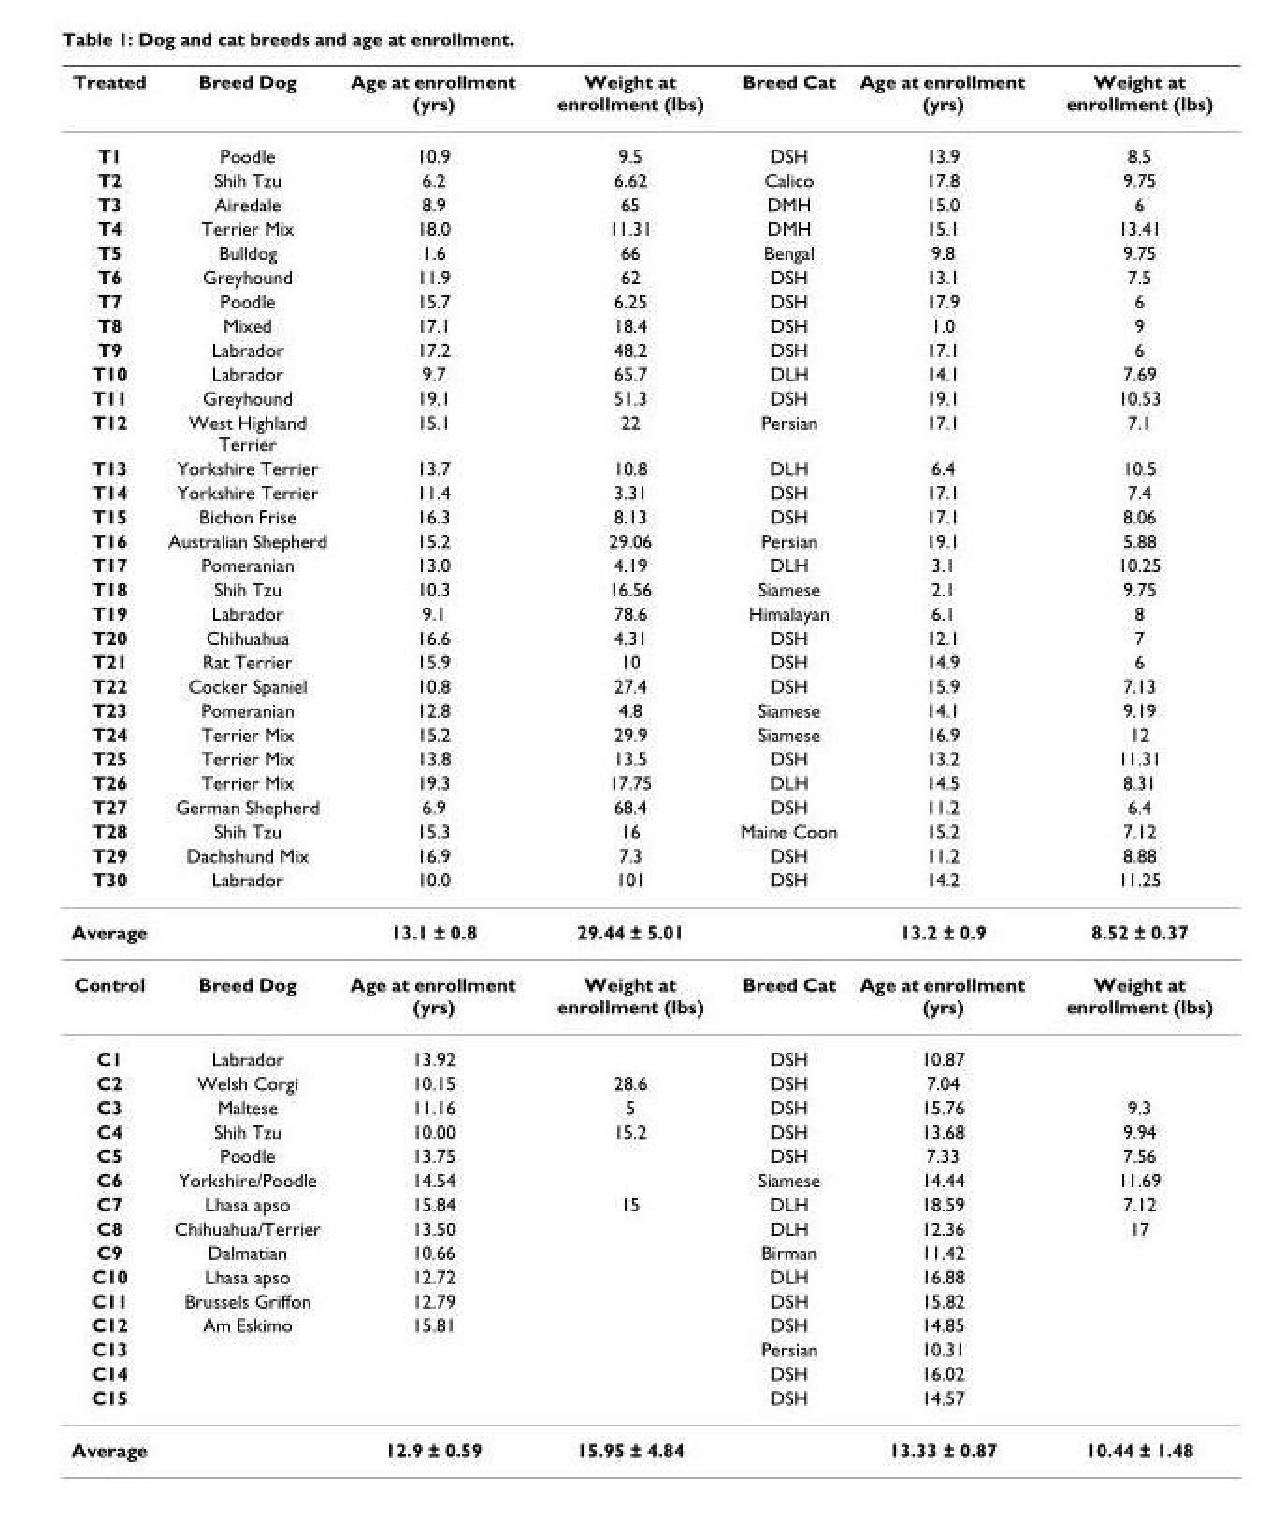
<table><thead><tr><td>Treated</td><td>Breed Dog</td><td>Age at enrollment (yrs)</td><td>Weight at enrollment (lbs)</td><td>Breed Cat</td><td>Age at enrollment (yrs)</td><td>Weight at enrollment (lbs)</td></tr></thead><tbody><tr><td>T1</td><td>Poodle</td><td>10.9</td><td>9.5</td><td>DSH</td><td>13.9</td><td>8.5</td></tr><tr><td>T2</td><td>Shih Tzu</td><td>6.2</td><td>6.62</td><td>Calico</td><td>17.8</td><td>9.75</td></tr><tr><td>T3</td><td>Airedale</td><td>8.9</td><td>65</td><td>DMH</td><td>15.0</td><td>6</td></tr><tr><td>T4</td><td>Terrier Mix</td><td>18.0</td><td>11.31</td><td>DMH</td><td>15.1</td><td>13.41</td></tr><tr><td>T5</td><td>Bulldog</td><td>1.6</td><td>66</td><td>Bengal</td><td>9.8</td><td>9.75</td></tr><tr><td>T6</td><td>Greyhound</td><td>11.9</td><td>62</td><td>DSH</td><td>13.1</td><td>7.5</td></tr><tr><td>T7</td><td>Poodle</td><td>15.7</td><td>6.25</td><td>DSH</td><td>17.9</td><td>6</td></tr><tr><td>T8</td><td>Mixed</td><td>17.1</td><td>18.4</td><td>DSH</td><td>1.0</td><td>9</td></tr><tr><td>T9</td><td>Labrador</td><td>17.2</td><td>48.2</td><td>DSH</td><td>17.1</td><td>6</td></tr><tr><td>T10</td><td>Labrador</td><td>9.7</td><td>65.7</td><td>DLH</td><td>14.1</td><td>7.69</td></tr><tr><td>T11</td><td>Greyhound</td><td>19.1</td><td>51.3</td><td>DSH</td><td>19.1</td><td>10.53</td></tr><tr><td>T12</td><td>West Highland Terrier</td><td>15.1</td><td>22</td><td>Persian</td><td>17.1</td><td>7.1</td></tr><tr><td>T13</td><td>Yorkshire Terrier</td><td>13.7</td><td>10.8</td><td>DLH</td><td>6.4</td><td>10.5</td></tr><tr><td>T14</td><td>Yorkshire Terrier</td><td>11.4</td><td>3.31</td><td>DSH</td><td>17.1</td><td>7.4</td></tr><tr><td>T15</td><td>Bichon Frise</td><td>16.3</td><td>8.13</td><td>DSH</td><td>17.1</td><td>8.06</td></tr><tr><td>T16</td><td>Australian Shepherd</td><td>15.2</td><td>29.06</td><td>Persian</td><td>19.1</td><td>5.88</td></tr><tr><td>T17</td><td>Pomeranian</td><td>13.0</td><td>4.19</td><td>DLH</td><td>3.1</td><td>10.25</td></tr><tr><td>T18</td><td>Shih Tzu</td><td>10.3</td><td>16.56</td><td>Siamese</td><td>2.1</td><td>9.75</td></tr><tr><td>T19</td><td>Labrador</td><td>9.1</td><td>78.6</td><td>Himalayan</td><td>6.1</td><td>8</td></tr><tr><td>T20</td><td>Chihuahua</td><td>16.6</td><td>4.31</td><td>DSH</td><td>12.1</td><td>7</td></tr><tr><td>T21</td><td>Rat Terrier</td><td>15.9</td><td>10</td><td>DSH</td><td>14.9</td><td>6</td></tr><tr><td>T22</td><td>Cocker Spaniel</td><td>10.8</td><td>27.4</td><td>DSH</td><td>15.9</td><td>7.13</td></tr><tr><td>T23</td><td>Pomeranian</td><td>12.8</td><td>4.8</td><td>Siamese</td><td>14.1</td><td>9.19</td></tr><tr><td>T24</td><td>Terrier Mix</td><td>15.2</td><td>29.9</td><td>Siamese</td><td>16.9</td><td>12</td></tr><tr><td>T25</td><td>Terrier Mix</td><td>13.8</td><td>13.5</td><td>DSH</td><td>13.2</td><td>11.31</td></tr><tr><td>T26</td><td>Terrier Mix</td><td>19.3</td><td>17.75</td><td>DLH</td><td>14.5</td><td>8.31</td></tr><tr><td>T27</td><td>German Shepherd</td><td>6.9</td><td>68.4</td><td>DSH</td><td>11.2</td><td>6.4</td></tr><tr><td>T28</td><td>Shih Tzu</td><td>15.3</td><td>16</td><td>Maine Coon</td><td>15.2</td><td>7.12</td></tr><tr><td>T29</td><td>Dachshund Mix</td><td>16.9</td><td>7.3</td><td>DSH</td><td>11.2</td><td>8.88</td></tr><tr><td>T30</td><td>Labrador</td><td>10.0</td><td>101</td><td>DSH</td><td>14.2</td><td>11.25</td></tr><tr><td>Average</td><td></td><td>13.1 ± 0.8</td><td>29.44 ± 5.01</td><td></td><td>13.2 ± 0.9</td><td>8.52 ± 0.37</td></tr><tr><td>Control</td><td>Breed Dog</td><td>Age at enrollment (yrs)</td><td>Weight at enrollment (lbs)</td><td>Breed Cat</td><td>Age at enrollment (yrs)</td><td>Weight at enrollment (lbs)</td></tr><tr><td>C1</td><td>Labrador</td><td>13.92</td><td></td><td>DSH</td><td>10.87</td><td></td></tr><tr><td>C2</td><td>Welsh Corgi</td><td>10.15</td><td>28.6</td><td>DSH</td><td>7.04</td><td></td></tr><tr><td>C3</td><td>Maltese</td><td>11.16</td><td>5</td><td>DSH</td><td>15.76</td><td>9.3</td></tr><tr><td>C4</td><td>Shih Tzu</td><td>10.00</td><td>15.2</td><td>DSH</td><td>13.68</td><td>9.94</td></tr><tr><td>C5</td><td>Poodle</td><td>13.75</td><td></td><td>DSH</td><td>7.33</td><td>7.56</td></tr><tr><td>C6</td><td>Yorkshire/Poodle</td><td>14.54</td><td></td><td>Siamese</td><td>14.44</td><td>11.69</td></tr><tr><td>C7</td><td>Lhasa apso</td><td>15.84</td><td>15</td><td>DLH</td><td>18.59</td><td>7.12</td></tr><tr><td>C8</td><td>Chihuahua/Terrier</td><td>13.50</td><td></td><td>DLH</td><td>12.36</td><td>17</td></tr><tr><td>C9</td><td>Dalmatian</td><td>10.66</td><td></td><td>Birman</td><td>11.42</td><td></td></tr><tr><td>C10</td><td>Lhasa apso</td><td>12.72</td><td></td><td>DLH</td><td>16.88</td><td></td></tr><tr><td>C11</td><td>Brussels Griffon</td><td>12.79</td><td></td><td>DSH</td><td>15.82</td><td></td></tr><tr><td>C12</td><td>Am Eskimo</td><td>15.81</td><td></td><td>DSH</td><td>14.85</td><td></td></tr><tr><td>C13</td><td></td><td></td><td></td><td>Persian</td><td>10.31</td><td></td></tr><tr><td>C14</td><td></td><td></td><td></td><td>DSH</td><td>16.02</td><td></td></tr><tr><td>C15</td><td></td><td></td><td></td><td>DSH</td><td>14.57</td><td></td></tr><tr><td>Average</td><td></td><td>12.9 ± 0.59</td><td>15.95 ± 4.84</td><td></td><td>13.33 ± 0.87</td><td>10.44 ± 1.48</td></tr></tbody></table>